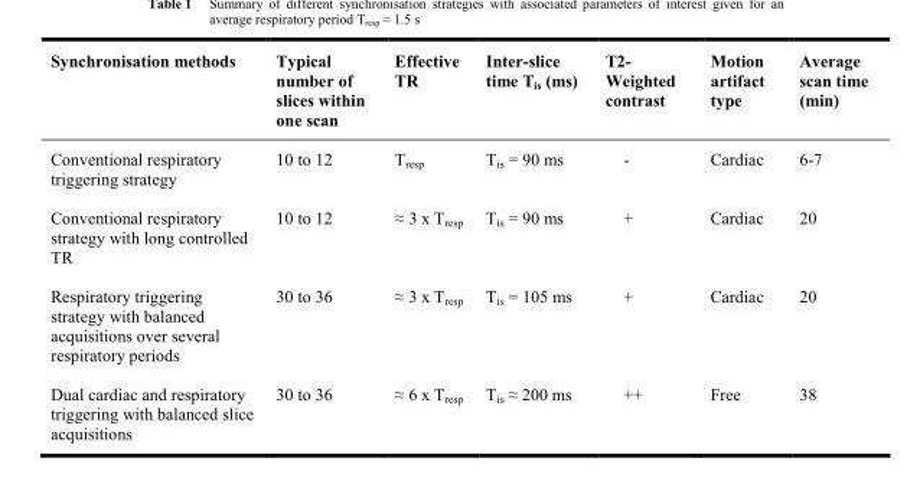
<table><thead><tr><td>Synchronisation methods</td><td>Typical number of slices within one scan</td><td>Effective TR</td><td>Inter-slice time T<sub>is</sub> (ms)</td><td>T2- Weighted contrast</td><td>Motion artifact type</td><td>Average scan time (min)</td></tr></thead><tbody><tr><td>Conventional respiratory triggering strategy</td><td>10 to 12</td><td>T<sub>resp</sub></td><td>T<sub>is</sub> = 90 ms</td><td>-</td><td>Cardiac</td><td>6-7</td></tr><tr><td>Conventional respiratory strategy with long controlled TR</td><td>10 to 12</td><td>≈ 3 x Tresp</td><td>T<sub>is</sub> = 90 ms</td><td>+</td><td>Cardiac</td><td>20</td></tr><tr><td>Respiratory triggering strategy with balanced acquisitions over several respiratory periods</td><td>30 to 36</td><td>≈ 3 x Tresp</td><td>T<sub>is</sub> = 105 ms</td><td>+</td><td>Cardiac</td><td>20</td></tr><tr><td>Dual cardiac and respiratory triggering with balanced slice acquisitions</td><td>30 to 36</td><td>≈ 6 x Tresp</td><td>Tis ≈ 200 ms</td><td>++</td><td>Free</td><td>38</td></tr></tbody></table>